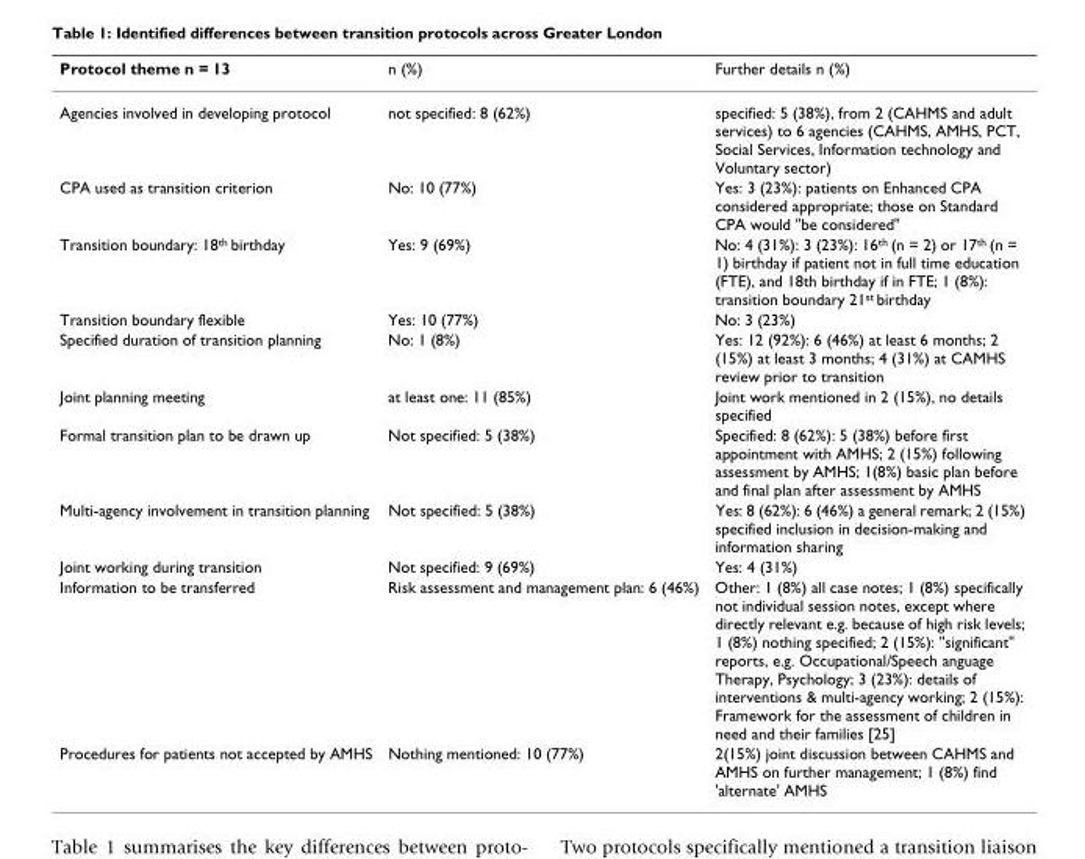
<table><thead><tr><td>Protocol theme n = 13</td><td>n (%)</td><td>Further details n (%)</td></tr></thead><tbody><tr><td>Agencies involved in developing protocol</td><td>not specified: 8 (62%)</td><td>specified: 5 (38%), from 2 (CAHMS and adult services) to 6 agencies (CAHMS, AMHS, PCT, Social Services, Information technology and Voluntary sector)</td></tr><tr><td>CPA used as transition criterion</td><td>No: 10 (77%)</td><td>Yes: 3 (23%): patients on Enhanced CPA considered appropriate; those on Standard CPA would &quot;be considered&quot;</td></tr><tr><td>Transition boundary: 18<sup>th</sup> birthday</td><td>Yes: 9 (69%)</td><td>No: 4 (31%): 3 (23%): 16<sup>th</sup> (n = 2) or 17<sup>th</sup> (n = 1) birthday if patient not in full time education (FTE), and 18th birthday if in FTE; 1 (8%): transition boundary 21<sup>st</sup> birthday</td></tr><tr><td>Transition boundary flexible</td><td>Yes: 10 (77%)</td><td>No: 3 (23%)</td></tr><tr><td>Specified duration of transition planning</td><td>No: 1 (8%)</td><td>Yes: 12 (92%): 6 (46%) at least 6 months; 2 (15%) at least 3 months; 4 (31%) at CAMHS review prior to transition</td></tr><tr><td>Joint planning meeting</td><td>at least one: 11 (85%)</td><td>Joint work mentioned in 2 (15%), no details specified</td></tr><tr><td>Formal transition plan to be drawn up</td><td>Not specified: 5 (38%)</td><td>Specified: 8 (62%): 5 (38%) before first appointment with AMHS; 2 (15%) following assessment by AMHS; 1(8%) basic plan before and final plan after assessment by AMHS</td></tr><tr><td>Multi-agency involvement in transition planning</td><td>Not specified: 5 (38%)</td><td>Yes: 8 (62%): 6 (46%) a general remark; 2 (15%) specified inclusion in decision-making and information sharing</td></tr><tr><td>Joint working during transition</td><td>Not specified: 9 (69%)</td><td>Yes: 4 (31%)</td></tr><tr><td>Information to be transferred</td><td>Risk assessment and management plan: 6 (46%)</td><td>Other: 1 (8%) all case notes; 1 (8%) specifically not individual session notes, except where directly relevant e.g. because of high risk levels; 1 (8%) nothing specified; 2 (15%): &quot;significant&quot; reports, e.g. Occupational/Speech anguage Therapy, Psychology; 3 (23%): details of interventions &amp; multi-agency working; 2 (15%): Framework for the assessment of children in need and their families [25]</td></tr><tr><td>Procedures for patients not accepted by AMHS</td><td>Nothing mentioned: 10 (77%)</td><td>2(15%) joint discussion between CAHMS and AMHS on further management; 1 (8%) find &#x27;alternate&#x27; AMHS</td></tr></tbody></table>